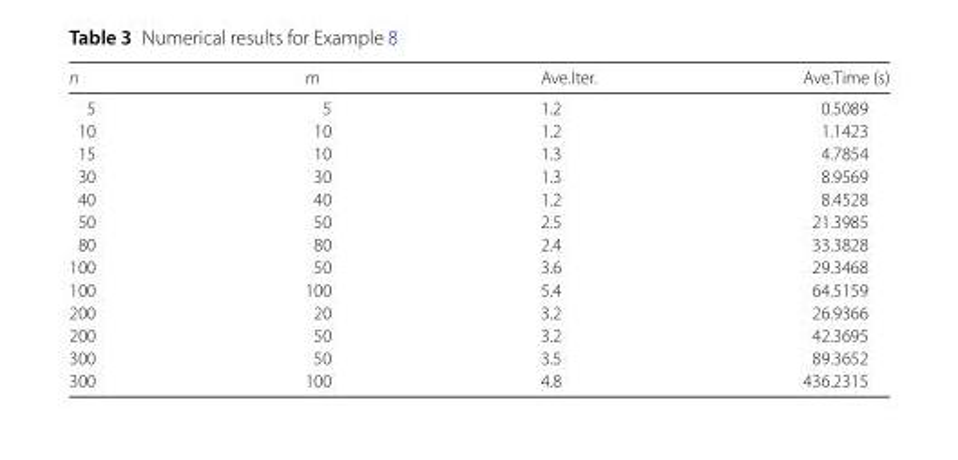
<table><thead><tr><td>n</td><td>m</td><td>Ave.Iter.</td><td>Ave.Time (s)</td></tr></thead><tbody><tr><td>5</td><td>5</td><td>1.2</td><td>0.5089</td></tr><tr><td>10</td><td>10</td><td>1.2</td><td>1.1423</td></tr><tr><td>15</td><td>10</td><td>1.3</td><td>4.7854</td></tr><tr><td>30</td><td>30</td><td>1.3</td><td>8.9569</td></tr><tr><td>40</td><td>40</td><td>1.2</td><td>8.4528</td></tr><tr><td>50</td><td>50</td><td>2.5</td><td>21.3985</td></tr><tr><td>80</td><td>80</td><td>2.4</td><td>33.3828</td></tr><tr><td>100</td><td>50</td><td>3.6</td><td>29.3468</td></tr><tr><td>100</td><td>100</td><td>5.4</td><td>64.5159</td></tr><tr><td>200</td><td>20</td><td>3.2</td><td>26.9366</td></tr><tr><td>200</td><td>50</td><td>3.2</td><td>42.3695</td></tr><tr><td>300</td><td>50</td><td>3.5</td><td>89.3652</td></tr><tr><td>300</td><td>100</td><td>4.8</td><td>436.2315</td></tr></tbody></table>